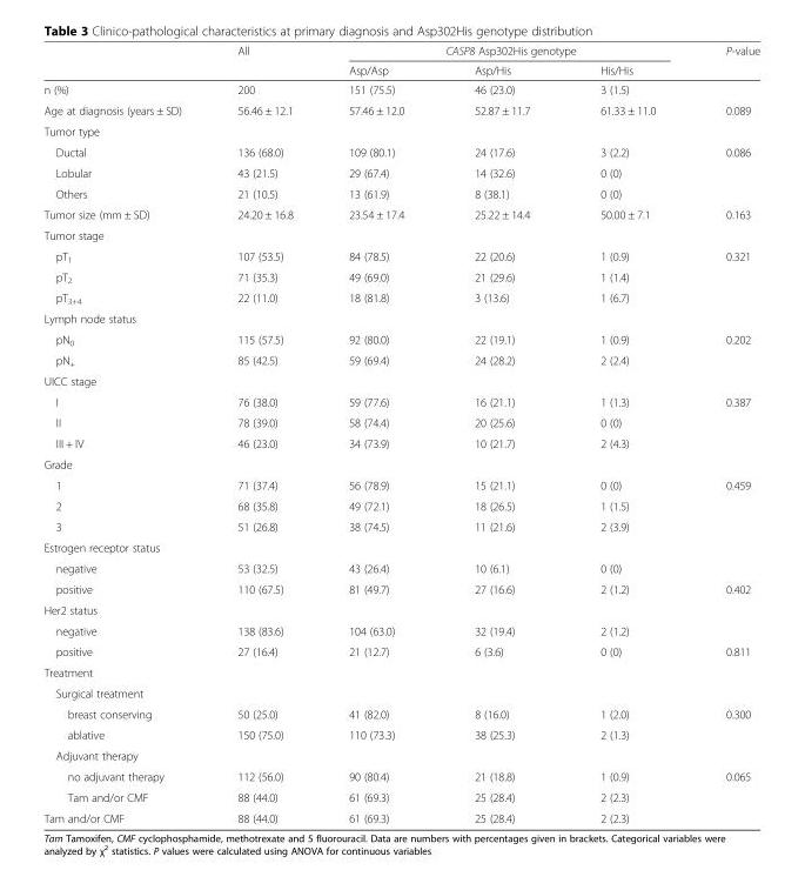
<table><thead><tr><td rowspan="2"></td><td rowspan="2">All</td><td colspan="3">CASP8 Asp302His genotype</td><td rowspan="2">P-value</td></tr><tr><td>Asp/Asp</td><td>Asp/His</td><td>His/His</td></tr></thead><tbody><tr><td>n (%)</td><td>200</td><td>151 (75.5)</td><td>46 (23.0)</td><td>3 (1.5)</td><td></td></tr><tr><td>Age at diagnosis (years ± SD)</td><td>56.46 ± 12.1</td><td>57.46 ± 12.0</td><td>52.87 ± 11.7</td><td>61.33 ± 11.0</td><td>0.089</td></tr><tr><td colspan="6">Tumor type</td></tr><tr><td>Ductal</td><td>136 (68.0)</td><td>109 (80.1)</td><td>24 (17.6)</td><td>3 (2.2)</td><td rowspan="3">0.086</td></tr><tr><td>Lobular</td><td>43 (21.5)</td><td>29 (67.4)</td><td>14 (32.6)</td><td>0 (0)</td></tr><tr><td>Others</td><td>21 (10.5)</td><td>13 (61.9)</td><td>8 (38.1)</td><td>0 (0)</td></tr><tr><td>Tumor size (mm ± SD)</td><td>24.20 ± 16.8</td><td>23.54 ± 17.4</td><td>25.22 ± 14.4</td><td>50.00 ± 7.1</td><td>0.163</td></tr><tr><td colspan="6">Tumor stage</td></tr><tr><td>pT<sub>1</sub></td><td>107 (53.5)</td><td>84 (78.5)</td><td>22 (20.6)</td><td>1 (0.9)</td><td rowspan="3">0.321</td></tr><tr><td>pT<sub>2</sub></td><td>71 (35.3)</td><td>49 (69.0)</td><td>21 (29.6)</td><td>1 (1.4)</td></tr><tr><td>pT<sub>3+4</sub></td><td>22 (11.0)</td><td>18 (81.8)</td><td>3 (13.6)</td><td>1 (6.7)</td></tr><tr><td colspan="6">Lymph node status</td></tr><tr><td>pN<sub>0</sub></td><td>115 (57.5)</td><td>92 (80.0)</td><td>22 (19.1)</td><td>1 (0.9)</td><td rowspan="2">0.202</td></tr><tr><td>pN<sub>+</sub></td><td>85 (42.5)</td><td>59 (69.4)</td><td>24 (28.2)</td><td>2 (2.4)</td></tr><tr><td colspan="6">UICC stage</td></tr><tr><td>I</td><td>76 (38.0)</td><td>59 (77.6)</td><td>16 (21.1)</td><td>1 (1.3)</td><td rowspan="3">0.387</td></tr><tr><td>II</td><td>78 (39.0)</td><td>58 (74.4)</td><td>20 (25.6)</td><td>0 (0)</td></tr><tr><td>III + IV</td><td>46 (23.0)</td><td>34 (73.9)</td><td>10 (21.7)</td><td>2 (4.3)</td></tr><tr><td colspan="6">Grade</td></tr><tr><td>1</td><td>71 (37.4)</td><td>56 (78.9)</td><td>15 (21.1)</td><td>0 (0)</td><td rowspan="3">0.459</td></tr><tr><td>2</td><td>68 (35.8)</td><td>49 (72.1)</td><td>18 (26.5)</td><td>1 (1.5)</td></tr><tr><td>3</td><td>51 (26.8)</td><td>38 (74.5)</td><td>11 (21.6)</td><td>2 (3.9)</td></tr><tr><td colspan="6">Estrogen receptor status</td></tr><tr><td>negative</td><td>53 (32.5)</td><td>43 (26.4)</td><td>10 (6.1)</td><td>0 (0)</td><td></td></tr><tr><td>positive</td><td>110 (67.5)</td><td>81 (49.7)</td><td>27 (16.6)</td><td>2 (1.2)</td><td rowspan="2">0.402</td></tr><tr><td colspan="5">Her2 status</td></tr><tr><td>negative</td><td>138 (83.6)</td><td>104 (63.0)</td><td>32 (19.4)</td><td>2 (1.2)</td><td></td></tr><tr><td>positive</td><td>27 (16.4)</td><td>21 (12.7)</td><td>6 (3.6)</td><td>0 (0)</td><td>0.811</td></tr><tr><td colspan="6">Treatment</td></tr><tr><td colspan="6">Surgical treatment</td></tr><tr><td>breast conserving</td><td>50 (25.0)</td><td>41 (82.0)</td><td>8 (16.0)</td><td>1 (2.0)</td><td>0.300</td></tr><tr><td>ablative</td><td>150 (75.0)</td><td>110 (73.3)</td><td>38 (25.3)</td><td>2 (1.3)</td><td></td></tr><tr><td colspan="6">Adjuvant therapy</td></tr><tr><td>no adjuvant therapy</td><td>112 (56.0)</td><td>90 (80.4)</td><td>21 (18.8)</td><td>1 (0.9)</td><td>0.065</td></tr><tr><td>Tam and/or CMF</td><td>88 (44.0)</td><td>61 (69.3)</td><td>25 (28.4)</td><td>2 (2.3)</td><td></td></tr><tr><td>Tam and/or CMF</td><td>88 (44.0)</td><td>61 (69.3)</td><td>25 (28.4)</td><td>2 (2.3)</td><td></td></tr></tbody></table>